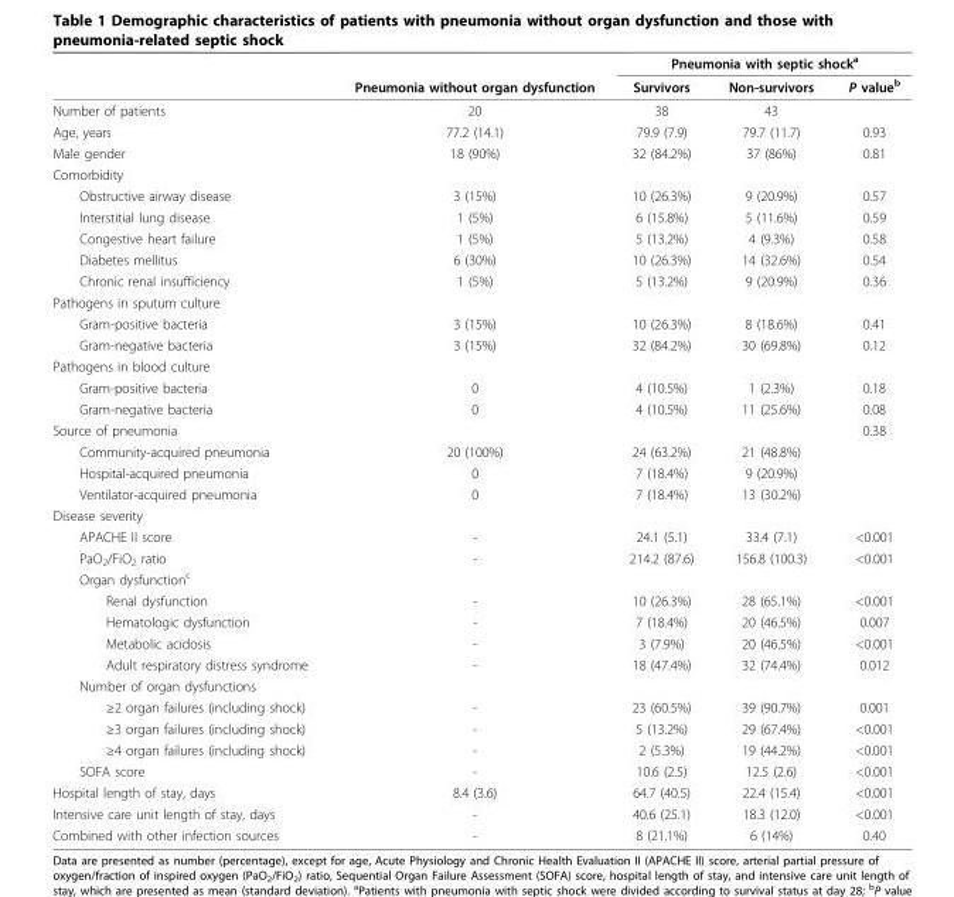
<table><thead><tr><td rowspan="2"></td><td rowspan="2">Pneumonia without organ dysfunction</td><td colspan="3">Pneumonia with septic shock<sup>a</sup></td></tr><tr><td>Survivors</td><td>Non-survivors</td><td>P value<sup>b</sup></td></tr></thead><tbody><tr><td>Number of patients</td><td>20</td><td>38</td><td>43</td><td></td></tr><tr><td>Age, years</td><td>77.2 (14.1)</td><td>79.9 (7.9)</td><td>79.7 (11.7)</td><td>0.93</td></tr><tr><td>Male gender</td><td>18 (90%)</td><td>32 (84.2%)</td><td>37 (86%)</td><td>0.81</td></tr><tr><td colspan="5">Comorbidity</td></tr><tr><td>Obstructive airway disease</td><td>3 (15%)</td><td>10 (26.3%)</td><td>9 (20.9%)</td><td>0.57</td></tr><tr><td>Interstitial lung disease</td><td>1 (5%)</td><td>6 (15.8%)</td><td>5 (11.6%)</td><td>0.59</td></tr><tr><td>Congestive heart failure</td><td>1 (5%)</td><td>5 (13.2%)</td><td>4 (9.3%)</td><td>0.58</td></tr><tr><td>Diabetes mellitus</td><td>6 (30%)</td><td>10 (26.3%)</td><td>14 (32.6%)</td><td>0.54</td></tr><tr><td>Chronic renal insufficiency</td><td>1 (5%)</td><td>5 (13.2%)</td><td>9 (20.9%)</td><td>0.36</td></tr><tr><td colspan="5">Pathogens in sputum culture</td></tr><tr><td>Gram-positive bacteria</td><td>3 (15%)</td><td>10 (26.3%)</td><td>8 (18.6%)</td><td>0.41</td></tr><tr><td>Gram-negative bacteria</td><td>3 (15%)</td><td>32 (84.2%)</td><td>30 (69.8%)</td><td>0.12</td></tr><tr><td colspan="5">Pathogens in blood culture</td></tr><tr><td>Gram-positive bacteria</td><td>0</td><td>4 (10.5%)</td><td>1 (2.3%)</td><td>0.18</td></tr><tr><td>Gram-negative bacteria</td><td>0</td><td>4 (10.5%)</td><td>11 (25.6%)</td><td>0.08</td></tr><tr><td>Source of pneumonia</td><td></td><td></td><td></td><td>0.38</td></tr><tr><td>Community-acquired pneumonia</td><td>20 (100%)</td><td>24 (63.2%)</td><td>21 (48.8%)</td><td></td></tr><tr><td>Hospital-acquired pneumonia</td><td>0</td><td>7 (18.4%)</td><td>9 (20.9%)</td><td></td></tr><tr><td>Ventilator-acquired pneumonia</td><td>0</td><td>7 (18.4%)</td><td>13 (30.2%)</td><td></td></tr><tr><td colspan="5">Disease severity</td></tr><tr><td>APACHE II score</td><td>-</td><td>24.1 (5.1)</td><td>33.4 (7.1)</td><td>&lt;0.001</td></tr><tr><td>PaO<sub>2</sub>/FiO<sub>2</sub> ratio</td><td>-</td><td>214.2 (87.6)</td><td>156.8 (100.3)</td><td>&lt;0.001</td></tr><tr><td colspan="5">Organ dysfunction<sup>c</sup></td></tr><tr><td>Renal dysfunction</td><td>-</td><td>10 (26.3%)</td><td>28 (65.1%)</td><td>&lt;0.001</td></tr><tr><td>Hematologic dysfunction</td><td>-</td><td>7 (18.4%)</td><td>20 (46.5%)</td><td>0.007</td></tr><tr><td>Metabolic acidosis</td><td>-</td><td>3 (7.9%)</td><td>20 (46.5%)</td><td>&lt;0.001</td></tr><tr><td>Adult respiratory distress syndrome</td><td>-</td><td>18 (47.4%)</td><td>32 (74.4%)</td><td>0.012</td></tr><tr><td colspan="5">Number of organ dysfunctions</td></tr><tr><td>≥2 organ failures (including shock)</td><td>-</td><td>23 (60.5%)</td><td>39 (90.7%)</td><td>0.001</td></tr><tr><td>≥3 organ failures (including shock)</td><td>-</td><td>5 (13.2%)</td><td>29 (67.4%)</td><td>&lt;0.001</td></tr><tr><td>≥4 organ failures (including shock)</td><td>-</td><td>2 (5.3%)</td><td>19 (44.2%)</td><td>&lt;0.001</td></tr><tr><td>SOFA score</td><td>-</td><td>10.6 (2.5)</td><td>12.5 (2.6)</td><td>&lt;0.001</td></tr><tr><td>Hospital length of stay, days</td><td>8.4 (3.6)</td><td>64.7 (40.5)</td><td>22.4 (15.4)</td><td>&lt;0.001</td></tr><tr><td>Intensive care unit length of stay, days</td><td>-</td><td>40.6 (25.1)</td><td>18.3 (12.0)</td><td>&lt;0.001</td></tr><tr><td>Combined with other infection sources</td><td>-</td><td>8 (21.1%)</td><td>6 (14%)</td><td>0.40</td></tr></tbody></table>